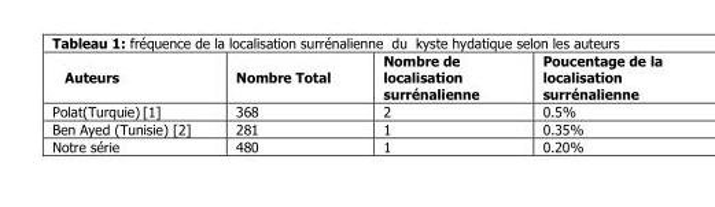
<table><thead><tr><td>Auteurs</td><td>Nombre Total</td><td>Nombre de localisation surrénalienne</td><td>Poucentage de la localisation surrénalienne</td></tr></thead><tbody><tr><td>Polat(Turquie) [1]</td><td>368</td><td>2</td><td>0.5%</td></tr><tr><td>Ben Ayed (Tunisie) [2]</td><td>281</td><td>1</td><td>0.35%</td></tr><tr><td>Notre série</td><td>480</td><td>1</td><td>0.20%</td></tr></tbody></table>